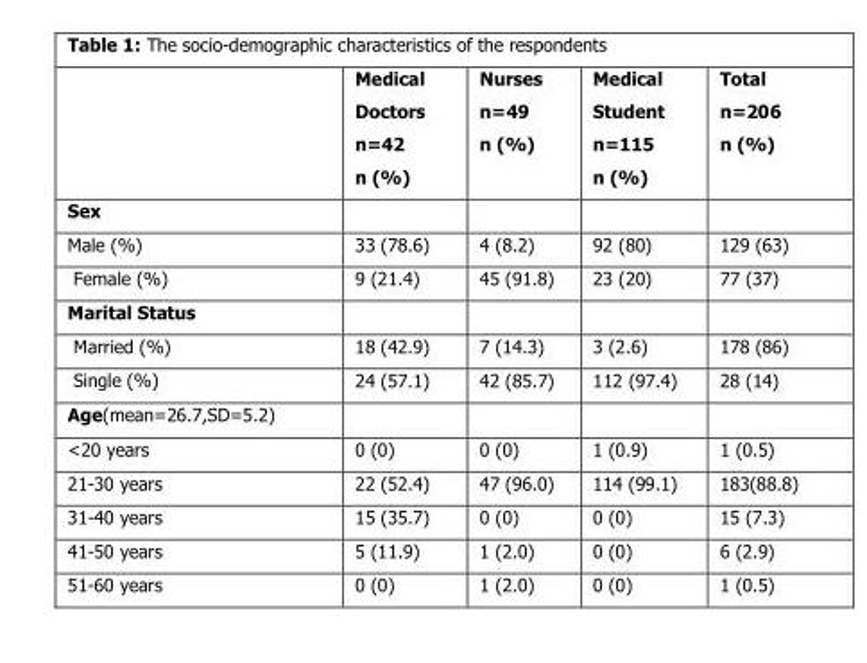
<table><thead><tr><td></td><td>Medical Doctors n=42 n (%)</td><td>Nurses n=49 n (%)</td><td>Medical Student n=115 n (%)</td><td>Total n=206 n (%)</td></tr></thead><tbody><tr><td colspan="5">Sex</td></tr><tr><td>Male (%)</td><td>33 (78.6)</td><td>4 (8.2)</td><td>92 (80)</td><td>129 (63)</td></tr><tr><td>Female (%)</td><td>9 (21.4)</td><td>45 (91.8)</td><td>23 (20)</td><td>77 (37)</td></tr><tr><td colspan="5">Marital Status</td></tr><tr><td>Married (%)</td><td>18 (42.9)</td><td>7 (14.3)</td><td>3 (2.6)</td><td>178 (86)</td></tr><tr><td>Single (%)</td><td>24 (57.1)</td><td>42 (85.7)</td><td>112 (97.4)</td><td>28 (14)</td></tr><tr><td colspan="5">Age(mean=26.7,SD=5.2)</td></tr><tr><td>&lt;20 years</td><td>0 (0)</td><td>0 (0)</td><td>1 (0.9)</td><td>1 (0.5)</td></tr><tr><td>21-30 years</td><td>22 (52.4)</td><td>47 (96.0)</td><td>114 (99.1)</td><td>183(88.8)</td></tr><tr><td>31-40 years</td><td>15 (35.7)</td><td>0 (0)</td><td>0 (0)</td><td>15 (7.3)</td></tr><tr><td>41-50 years</td><td>5 (11.9)</td><td>1 (2.0)</td><td>0 (0)</td><td>6 (2.9)</td></tr><tr><td>51-60 years</td><td>0 (0)</td><td>1 (2.0)</td><td>0 (0)</td><td>1 (0.5)</td></tr></tbody></table>